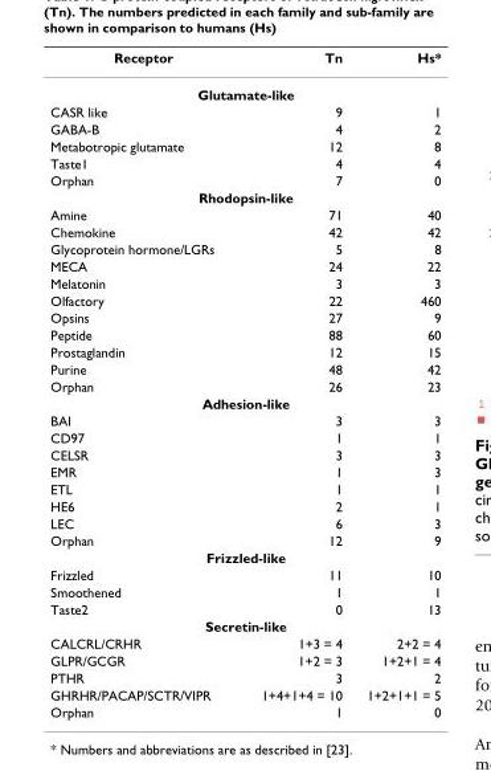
<table><thead><tr><td>Receptor</td><td>Tn</td><td>Hs*</td></tr></thead><tbody><tr><td colspan="3">Glutamate-like</td></tr><tr><td>CASR like</td><td>9</td><td>1</td></tr><tr><td>GABA-B</td><td>4</td><td>2</td></tr><tr><td>Metabotropic glutamate</td><td>12</td><td>8</td></tr><tr><td>Taste1</td><td>4</td><td>4</td></tr><tr><td>Orphan</td><td>7</td><td>0</td></tr><tr><td colspan="3">Rhodopsin-like</td></tr><tr><td>Amine</td><td>71</td><td>40</td></tr><tr><td>Chemokine</td><td>42</td><td>42</td></tr><tr><td>Glycoprotein hormone/LGRs</td><td>5</td><td>8</td></tr><tr><td>MECA</td><td>24</td><td>22</td></tr><tr><td>Melatonin</td><td>3</td><td>3</td></tr><tr><td>Olfactory</td><td>22</td><td>460</td></tr><tr><td>Opsins</td><td>27</td><td>9</td></tr><tr><td>Peptide</td><td>88</td><td>60</td></tr><tr><td>Prostaglandin</td><td>12</td><td>15</td></tr><tr><td>Purine</td><td>48</td><td>42</td></tr><tr><td>Orphan</td><td>26</td><td>23</td></tr><tr><td colspan="3">Adhesion-like</td></tr><tr><td>BAI</td><td>3</td><td>3</td></tr><tr><td>CD97</td><td>1</td><td>1</td></tr><tr><td>CELSR</td><td>3</td><td>3</td></tr><tr><td>EMR</td><td>1</td><td>3</td></tr><tr><td>ETL</td><td>1</td><td>1</td></tr><tr><td>HE6</td><td>2</td><td>1</td></tr><tr><td>LEC</td><td>6</td><td>3</td></tr><tr><td>Orphan</td><td>12</td><td>9</td></tr><tr><td colspan="3">Frizzled-like</td></tr><tr><td>Frizzled</td><td>11</td><td>10</td></tr><tr><td>Smoothened</td><td>1</td><td>1</td></tr><tr><td>Taste2</td><td>0</td><td>13</td></tr><tr><td colspan="3">Secretin-like</td></tr><tr><td>CALCRL/CRHR</td><td>1+3 = 4</td><td>2+2 = 4</td></tr><tr><td>GLPR/GCGR</td><td>1+2 = 3</td><td>1+2+1 = 4</td></tr><tr><td>PTHR</td><td>3</td><td>2</td></tr><tr><td>GHRHR/PACAP/SCTR/VIPR</td><td>1+4+1+4 = 10</td><td>1+2+1+1 = 5</td></tr><tr><td>Orphan</td><td>1</td><td>0</td></tr></tbody></table>